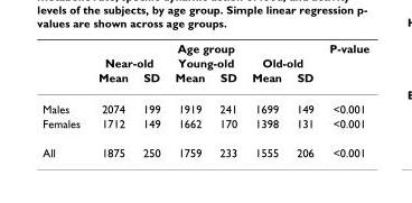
<table><thead><tr><td rowspan="3"></td><td colspan="6">Age group</td><td rowspan="3">P-value</td></tr><tr><td colspan="2">Near-old</td><td colspan="2">Young-old</td><td colspan="2">Old-old</td></tr><tr><td>Mean</td><td>SD</td><td>Mean</td><td>SD</td><td>Mean</td><td>SD</td></tr></thead><tbody><tr><td>Males</td><td>2074</td><td>199</td><td>1919</td><td>241</td><td>1699</td><td>149</td><td>&lt;0.001</td></tr><tr><td>Females</td><td>1712</td><td>149</td><td>1662</td><td>170</td><td>1398</td><td>131</td><td>&lt;0.001</td></tr><tr><td>All</td><td>1875</td><td>250</td><td>1759</td><td>233</td><td>1555</td><td>206</td><td>&lt;0.001</td></tr></tbody></table>